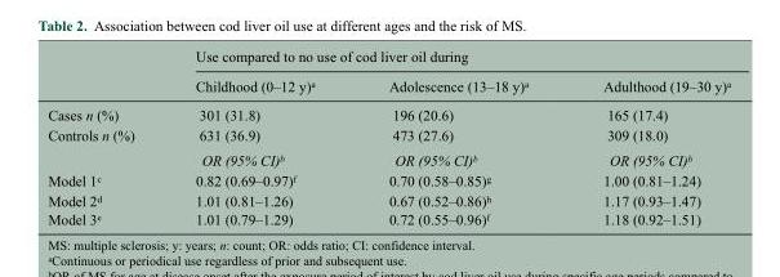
<table><thead><tr><td rowspan="2"></td><td colspan="3">Use compared to no use of cod liver oil during</td></tr><tr><td>Childhood (0–12 y)<sup>a</sup></td><td>Adolescence (13–18 y)<sup>a</sup></td><td>Adulthood (19–30 y)<sup>a</sup></td></tr></thead><tbody><tr><td>Cases n (%)</td><td>301 (31.8)</td><td>196 (20.6)</td><td>165 (17.4)</td></tr><tr><td rowspan="2">Controls n (%)</td><td>631 (36.9)</td><td>473 (27.6)</td><td>309 (18.0)</td></tr><tr><td>OR (95% CI)<sup>b</sup></td><td>OR (95% CI)<sup>b</sup></td><td>OR (95% CI)<sup>b</sup></td></tr><tr><td>Model 1<sup>c</sup></td><td>0.82 (0.69–0.97)<sup>f</sup></td><td>0.70 (0.58–0.85)<sup>g</sup></td><td>1.00 (0.81–1.24)</td></tr><tr><td>Model 2<sup>d</sup></td><td>1.01 (0.81–1.26)</td><td>0.67 (0.52–0.86)<sup>h</sup></td><td>1.17 (0.93–1.47)</td></tr><tr><td>Model 3<sup>e</sup></td><td>1.01 (0.79–1.29)</td><td>0.72 (0.55–0.96)<sup>f</sup></td><td>1.18 (0.92–1.51)</td></tr></tbody></table>